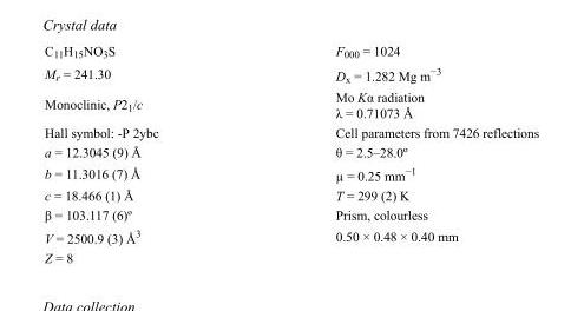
<table><tbody><tr><td>C<sub>11</sub>H<sub>15</sub>NO<sub>3</sub>S</td><td>F<sub>000</sub> = 1024</td></tr><tr><td>M<sub>r</sub> = 241.30</td><td>D<sub>x</sub> = 1.282 Mg m<sup>−3</sup></td></tr><tr><td>Monoclinic, P2<sub>1</sub>/c</td><td>Mo Kα radiation λ = 0.71073 Å</td></tr><tr><td>Hall symbol: -P 2ybc</td><td>Cell parameters from 7426 reflections</td></tr><tr><td>a = 12.3045 (9) Å</td><td>θ = 2.5–28.0º</td></tr><tr><td>b = 11.3016 (7) Å</td><td>µ = 0.25 mm<sup>−1</sup></td></tr><tr><td>c = 18.466 (1) Å</td><td>T = 299 (2) K</td></tr><tr><td>β = 103.117 (6)º</td><td>Prism, colourless</td></tr><tr><td>V = 2500.9 (3) Å<sup>3</sup></td><td>0.50 × 0.48 × 0.40 mm</td></tr><tr><td>Z = 8</td><td></td></tr></tbody></table>